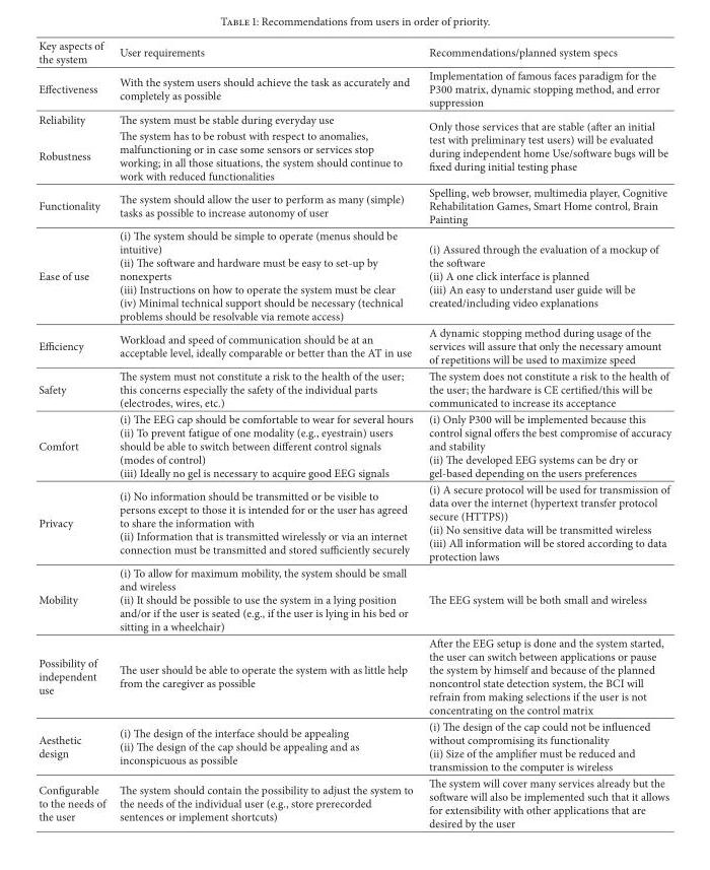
<table><thead><tr><td>Key aspects of the system</td><td>User requirements</td><td>Recommendations/planned system specs</td></tr></thead><tbody><tr><td>Effectiveness</td><td>With the system users should achieve the task as accurately and completely as possible</td><td>Implementation of famous faces paradigm for the P300 matrix, dynamic stopping method, and error suppression</td></tr><tr><td>Reliability</td><td>The system must be stable during everyday use</td><td rowspan="2">Only those services that are stable (after an initial test with preliminary test users) will be evaluated during independent home Use/software bugs will be fixed during initial testing phase</td></tr><tr><td>Robustness</td><td>The system has to be robust with respect to anomalies, malfunctioning or in case some sensors or services stop working; in all those situations, the system should continue to work with reduced functionalities</td></tr><tr><td>Functionality</td><td>The system should allow the user to perform as many (simple) tasks as possible to increase autonomy of user</td><td>Spelling, web browser, multimedia player, Cognitive Rehabilitation Games, Smart Home control, Brain Painting</td></tr><tr><td>Ease of use</td><td>(i) The system should be simple to operate (menus should be intuitive) (ii) The software and hardware must be easy to set-up by nonexperts (iii) Instructions on how to operate the system must be clear (iv) Minimal technical support should be necessary (technical problems should be resolvable via remote access)</td><td>(i) Assured through the evaluation of a mockup of the software (ii) A one click interface is planned (iii) An easy to understand user guide will be created/including video explanations</td></tr><tr><td>Efficiency</td><td>Workload and speed of communication should be at an acceptable level, ideally comparable or better than the AT in use</td><td>A dynamic stopping method during usage of the services will assure that only the necessary amount of repetitions will be used to maximize speed</td></tr><tr><td>Safety</td><td>The system must not constitute a risk to the health of the user; this concerns especially the safety of the individual parts (electrodes, wires, etc.)</td><td>The system does not constitute a risk to the health of the user; the hardware is CE certified/this will be communicated to increase its acceptance</td></tr><tr><td>Comfort</td><td>(i) The EEG cap should be comfortable to wear for several hours (ii) To prevent fatigue of one modality (e.g., eyestrain) users should be able to switch between different control signals (modes of control) (iii) Ideally no gel is necessary to acquire good EEG signals</td><td>(i) Only P300 will be implemented because this control signal offers the best compromise of accuracy and stability (ii) The developed EEG systems can be dry or gel-based depending on the users preferences</td></tr><tr><td>Privacy</td><td>(i) No information should be transmitted or be visible to persons except to those it is intended for or the user has agreed to share the information with (ii) Information that is transmitted wirelessly or via an internet connection must be transmitted and stored sufficiently securely</td><td>(i) A secure protocol will be used for transmission of data over the internet (hypertext transfer protocol secure (HTTPS)) (ii) No sensitive data will be transmitted wireless (iii) All information will be stored according to data protection laws</td></tr><tr><td>Mobility</td><td>(i) To allow for maximum mobility, the system should be small and wireless (ii) It should be possible to use the system in a lying position and/or if the user is seated (e.g., if the user is lying in his bed or sitting in a wheelchair)</td><td>The EEG system will be both small and wireless</td></tr><tr><td>Possibility of independent use</td><td>The user should be able to operate the system with as little help from the caregiver as possible</td><td>After the EEG setup is done and the system started, the user can switch between applications or pause the system by himself and because of the planned noncontrol state detection system, the BCI will refrain from making selections if the user is not concentrating on the control matrix</td></tr><tr><td>Aesthetic design</td><td>(i) The design of the interface should be appealing (ii) The design of the cap should be appealing and as inconspicuous as possible</td><td>(i) The design of the cap could not be influenced without compromising its functionality (ii) Size of the amplifier must be reduced and transmission to the computer is wireless</td></tr><tr><td>Configurable to the needs of the user</td><td>The system should contain the possibility to adjust the system to the needs of the individual user (e.g., store prerecorded sentences or implement shortcuts)</td><td>The system will cover many services already but the software will also be implemented such that it allows for extensibility with other applications that are desired by the user</td></tr></tbody></table>